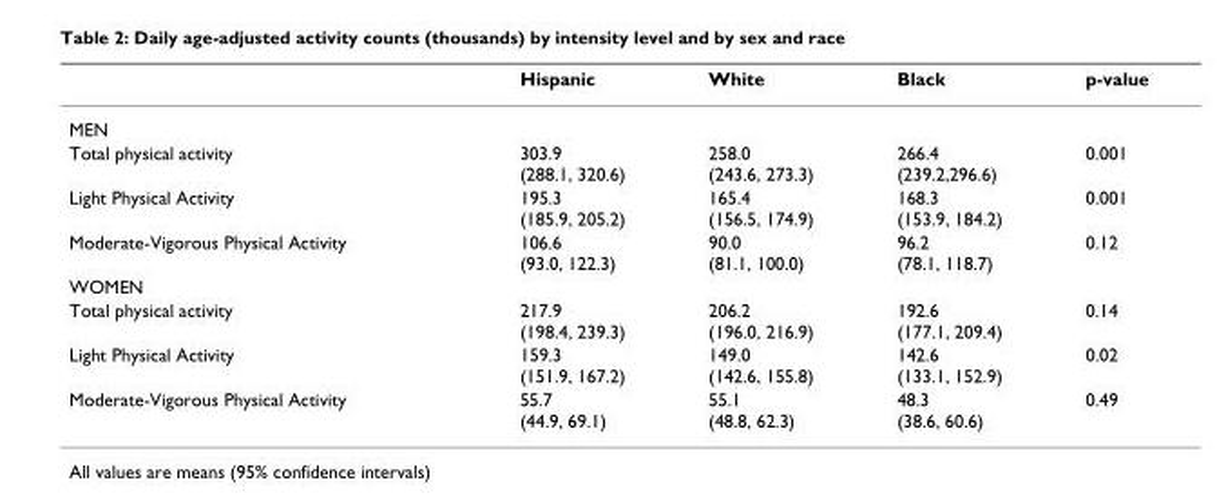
<table><thead><tr><td></td><td>Hispanic</td><td>White</td><td>Black</td><td>p-value</td></tr></thead><tbody><tr><td colspan="5">MEN</td></tr><tr><td>Total physical activity</td><td>303.9 (288.1, 320.6)</td><td>258.0 (243.6, 273.3)</td><td>266.4 (239.2,296.6)</td><td>0.001</td></tr><tr><td>Light Physical Activity</td><td>195.3 (185.9, 205.2)</td><td>165.4 (156.5, 174.9)</td><td>168.3 (153.9, 184.2)</td><td>0.001</td></tr><tr><td>Moderate-Vigorous Physical Activity</td><td>106.6 (93.0, 122.3)</td><td>90.0 (81.1, 100.0)</td><td>96.2 (78.1, 118.7)</td><td>0.12</td></tr><tr><td colspan="5">WOMEN</td></tr><tr><td>Total physical activity</td><td>217.9 (198.4, 239.3)</td><td>206.2 (196.0, 216.9)</td><td>192.6 (177.1, 209.4)</td><td>0.14</td></tr><tr><td>Light Physical Activity</td><td>159.3 (151.9, 167.2)</td><td>149.0 (142.6, 155.8)</td><td>142.6 (133.1, 152.9)</td><td>0.02</td></tr><tr><td>Moderate-Vigorous Physical Activity</td><td>55.7 (44.9, 69.1)</td><td>55.1 (48.8, 62.3)</td><td>48.3 (38.6, 60.6)</td><td>0.49</td></tr></tbody></table>